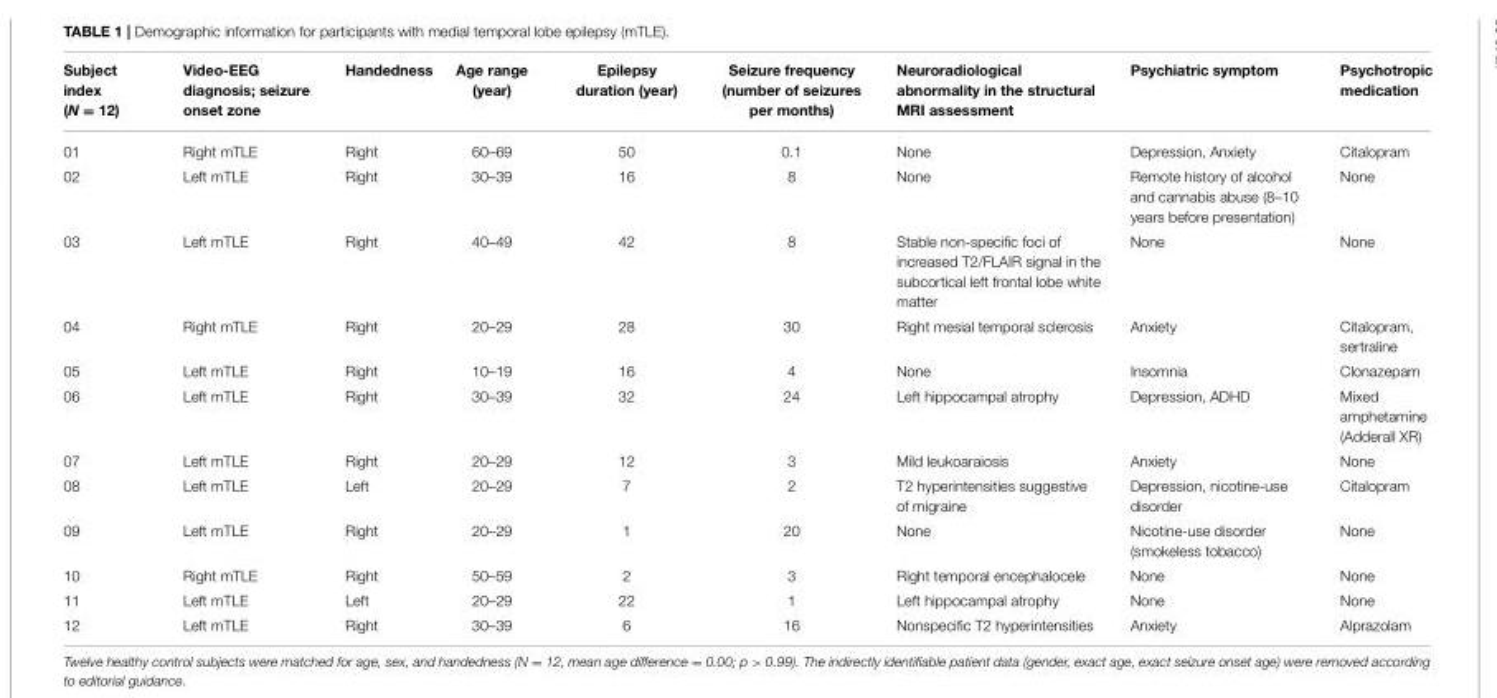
<table><thead><tr><td>Subject index (N = 12)</td><td>Video-EEG diagnosis; seizure onset zone</td><td>Handedness</td><td>Age range (year)</td><td>Epilepsy duration (year)</td><td>Seizure frequency (number of seizures per months)</td><td>Neuroradiological abnormality in the structural MRI assessment</td><td>Psychiatric symptom</td><td>Psychotropic medication</td></tr></thead><tbody><tr><td>01</td><td>Right mTLE</td><td>Right</td><td>60–69</td><td>50</td><td>0.1</td><td>None</td><td>Depression, Anxiety</td><td>Citalopram</td></tr><tr><td>02</td><td>Left mTLE</td><td>Right</td><td>30–39</td><td>16</td><td>8</td><td>None</td><td>Remote history of alcohol and cannabis abuse (8–10 years before presentation)</td><td>None</td></tr><tr><td>03</td><td>Left mTLE</td><td>Right</td><td>40–49</td><td>42</td><td>8</td><td>Stable non-specific foci of increased T2/FLAIR signal in the subcortical left frontal lobe white matter</td><td>None</td><td>None</td></tr><tr><td>04</td><td>Right mTLE</td><td>Right</td><td>20–29</td><td>28</td><td>30</td><td>Right mesial temporal sclerosis</td><td>Anxiety</td><td>Citalopram, sertraline</td></tr><tr><td>05</td><td>Left mTLE</td><td>Right</td><td>10–19</td><td>16</td><td>4</td><td>None</td><td>Insomnia</td><td>Clonazepam</td></tr><tr><td>06</td><td>Left mTLE</td><td>Right</td><td>30–39</td><td>32</td><td>24</td><td>Left hippocampal atrophy</td><td>Depression, ADHD</td><td>Mixed amphetamine (Adderall XR)</td></tr><tr><td>07</td><td>Left mTLE</td><td>Right</td><td>20–29</td><td>12</td><td>3</td><td>Mild leukoaraiosis</td><td>Anxiety</td><td>None</td></tr><tr><td>08</td><td>Left mTLE</td><td>Left</td><td>20–29</td><td>7</td><td>2</td><td>T2 hyperintensities suggestive of migraine</td><td>Depression, nicotine-use disorder</td><td>Citalopram</td></tr><tr><td>09</td><td>Left mTLE</td><td>Right</td><td>20–29</td><td>1</td><td>20</td><td>None</td><td>Nicotine-use disorder (smokeless tobacco)</td><td>None</td></tr><tr><td>10</td><td>Right mTLE</td><td>Right</td><td>50–59</td><td>2</td><td>3</td><td>Right temporal encephalocele</td><td>None</td><td>None</td></tr><tr><td>11</td><td>Left mTLE</td><td>Left</td><td>20–29</td><td>22</td><td>1</td><td>Left hippocampal atrophy</td><td>None</td><td>None</td></tr><tr><td>12</td><td>Left mTLE</td><td>Right</td><td>30–39</td><td>6</td><td>16</td><td>Nonspecific T2 hyperintensities</td><td>Anxiety</td><td>Alprazolam</td></tr></tbody></table>